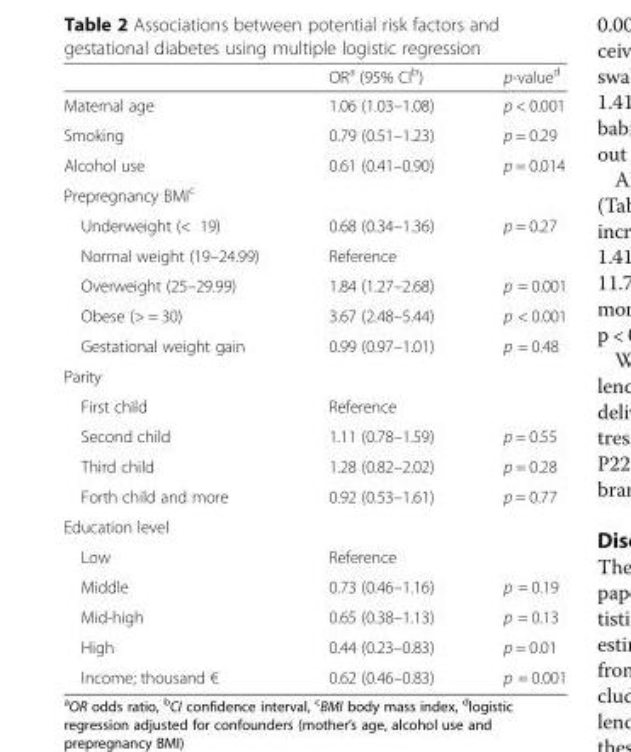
<table><thead><tr><td></td><td>OR<sup>a</sup> (95% CI<sup>b</sup>)</td><td>p-value<sup>d</sup></td></tr></thead><tbody><tr><td>Maternal age</td><td>1.06 (1.03–1.08)</td><td>p &lt; 0.001</td></tr><tr><td>Smoking</td><td>0.79 (0.51–1.23)</td><td>p = 0.29</td></tr><tr><td>Alcohol use</td><td>0.61 (0.41–0.90)</td><td>p = 0.014</td></tr><tr><td colspan="3">Prepregnancy BMI<sup>c</sup></td></tr><tr><td>Underweight (&lt; 19)</td><td>0.68 (0.34–1.36)</td><td>p = 0.27</td></tr><tr><td>Normal weight (19–24.99)</td><td>Reference</td><td></td></tr><tr><td>Overweight (25–29.99)</td><td>1.84 (1.27–2.68)</td><td>p = 0.001</td></tr><tr><td>Obese (&gt; = 30)</td><td>3.67 (2.48–5.44)</td><td>p &lt; 0.001</td></tr><tr><td>Gestational weight gain</td><td>0.99 (0.97–1.01)</td><td>p = 0.48</td></tr><tr><td colspan="3">Parity</td></tr><tr><td>First child</td><td>Reference</td><td></td></tr><tr><td>Second child</td><td>1.11 (0.78–1.59)</td><td>p = 0.55</td></tr><tr><td>Third child</td><td>1.28 (0.82–2.02)</td><td>p = 0.28</td></tr><tr><td>Forth child and more</td><td>0.92 (0.53–1.61)</td><td>p = 0.77</td></tr><tr><td colspan="3">Education level</td></tr><tr><td>Low</td><td>Reference</td><td></td></tr><tr><td>Middle</td><td>0.73 (0.46–1.16)</td><td>p = 0.19</td></tr><tr><td>Mid-high</td><td>0.65 (0.38–1.13)</td><td>p = 0.13</td></tr><tr><td>High</td><td>0.44 (0.23–0.83)</td><td>p = 0.01</td></tr><tr><td>Income; thousand €</td><td>0.62 (0.46–0.83)</td><td>p = 0.001</td></tr></tbody></table>